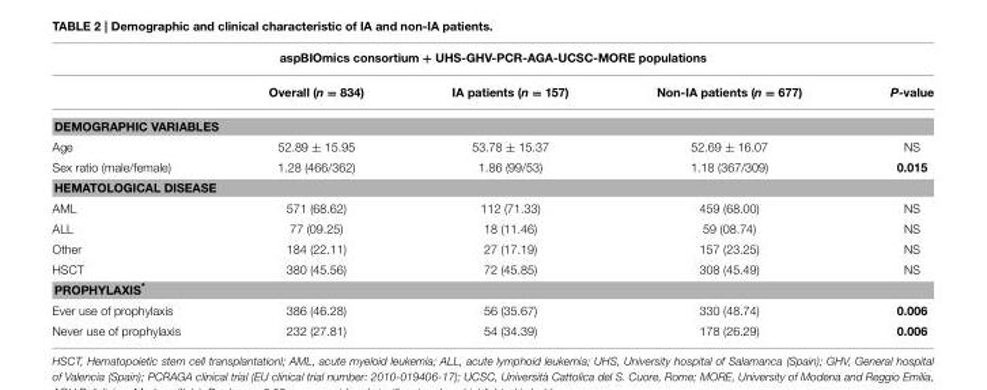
<table><thead><tr><td colspan="5">aspBIOmics consortium + UHS-GHV-PCR-AGA-UCSC-MORE populations</td></tr><tr><td></td><td>Overall (n = 834)</td><td>IA patients (n = 157)</td><td>Non-IA patients (n = 677)</td><td>P-value</td></tr></thead><tbody><tr><td colspan="5">DEMOGRAPHIC VARIABLES</td></tr><tr><td>Age</td><td>52.89 ± 15.95</td><td>53.78 ± 15.37</td><td>52.69 ± 16.07</td><td>NS</td></tr><tr><td>Sex ratio (male/female)</td><td>1.28 (466/362)</td><td>1.86 (99/53)</td><td>1.18 (367/309)</td><td>0.015</td></tr><tr><td colspan="5">HEMATOLOGICAL DISEASE</td></tr><tr><td>AML</td><td>571 (68.62)</td><td>112 (71.33)</td><td>459 (68.00)</td><td>NS</td></tr><tr><td>ALL</td><td>77 (09.25)</td><td>18 (11.46)</td><td>59 (08.74)</td><td>NS</td></tr><tr><td>Other</td><td>184 (22.11)</td><td>27 (17.19)</td><td>157 (23.25)</td><td>NS</td></tr><tr><td>HSCT</td><td>380 (45.56)</td><td>72 (45.85)</td><td>308 (45.49)</td><td>NS</td></tr><tr><td colspan="5">PROPHYLAXIS*</td></tr><tr><td>Ever use of prophylaxis</td><td>386 (46.28)</td><td>56 (35.67)</td><td>330 (48.74)</td><td>0.006</td></tr><tr><td>Never use of prophylaxis</td><td>232 (27.81)</td><td>54 (34.39)</td><td>178 (26.29)</td><td>0.006</td></tr></tbody></table>